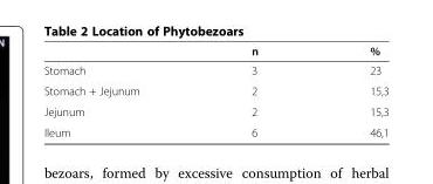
<table><thead><tr><td></td><td>n</td><td>%</td></tr></thead><tbody><tr><td>Stomach</td><td>3</td><td>23</td></tr><tr><td>Stomach + Jejunum</td><td>2</td><td>15,3</td></tr><tr><td>Jejunum</td><td>2</td><td>15,3</td></tr><tr><td>Ileum</td><td>6</td><td>46,1</td></tr></tbody></table>